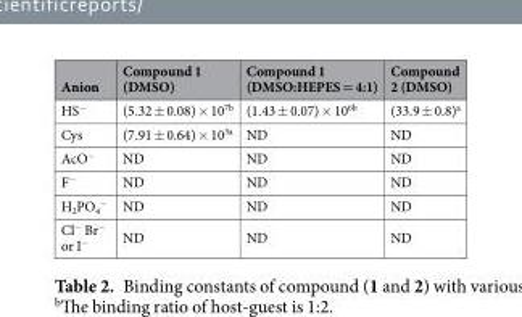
<table><thead><tr><td>Anion</td><td>Compound 1 (DMSO)</td><td>Compound 1 (DMSO:HEPES = 4:1)</td><td>Compound 2 (DMSO)</td></tr></thead><tbody><tr><td>HS<sup>−</sup></td><td>(5.32 ± 0.08) × 10<sup>7b</sup></td><td>(1.43 ± 0.07) × 10<sup>6b</sup></td><td>(33.9 ± 0.8)<sup>a</sup></td></tr><tr><td>Cys</td><td>(7.91 ± 0.64) × 10<sup>3a</sup></td><td>ND</td><td>ND</td></tr><tr><td>AcO<sup>−</sup></td><td>ND</td><td>ND</td><td>ND</td></tr><tr><td>F<sup>−</sup></td><td>ND</td><td>ND</td><td>ND</td></tr><tr><td>H<sub>2</sub>PO<sub>4</sub> <sup>−</sup></td><td>ND</td><td>ND</td><td>ND</td></tr><tr><td>Cl<sup>−</sup> Br<sup>−</sup> or I<sup>−</sup></td><td>ND</td><td>ND</td><td>ND</td></tr></tbody></table>